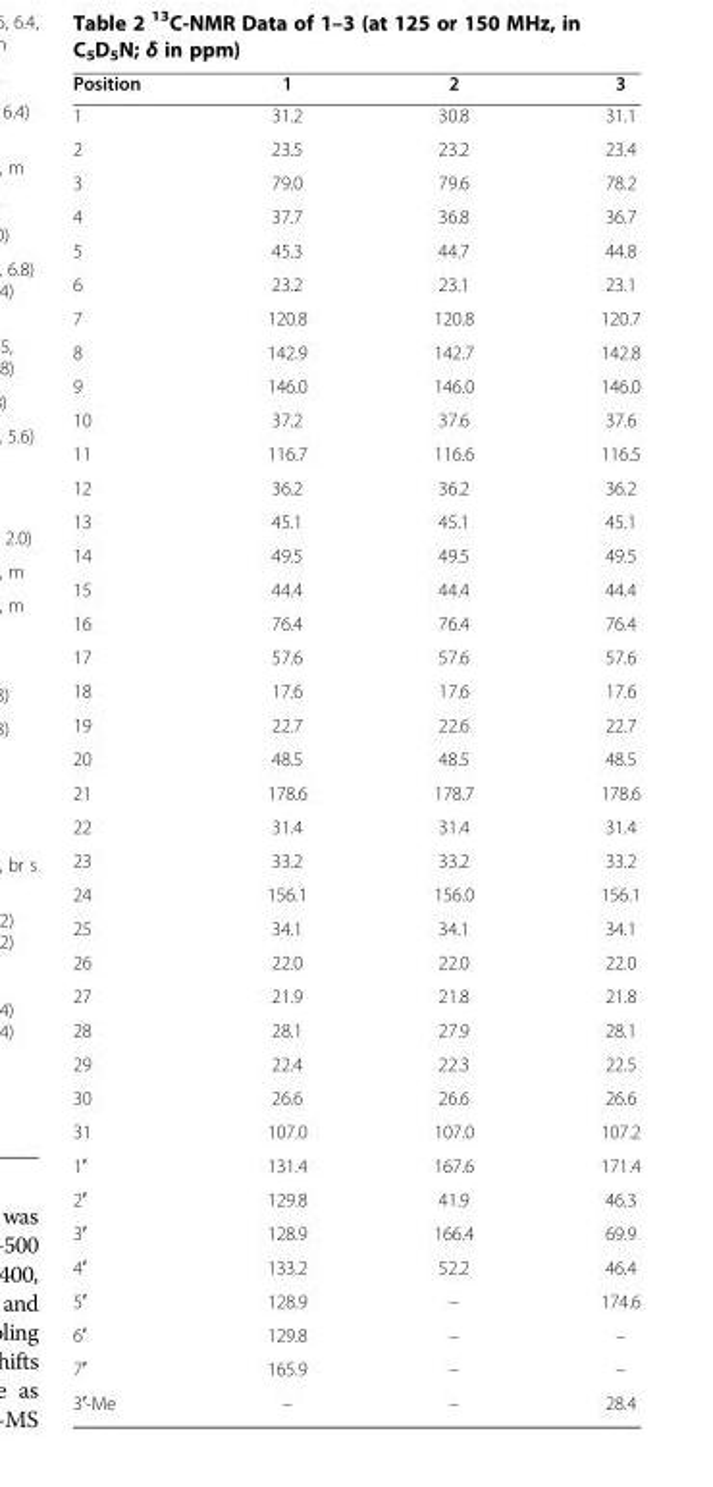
<table><thead><tr><td>Position</td><td>1</td><td>2</td><td>3</td></tr></thead><tbody><tr><td>1</td><td>31.2</td><td>30.8</td><td>31.1</td></tr><tr><td>2</td><td>23.5</td><td>23.2</td><td>23.4</td></tr><tr><td>3</td><td>79.0</td><td>79.6</td><td>78.2</td></tr><tr><td>4</td><td>37.7</td><td>36.8</td><td>36.7</td></tr><tr><td>5</td><td>45.3</td><td>44.7</td><td>44.8</td></tr><tr><td>6</td><td>23.2</td><td>23.1</td><td>23.1</td></tr><tr><td>7</td><td>120.8</td><td>120.8</td><td>120.7</td></tr><tr><td>8</td><td>142.9</td><td>142.7</td><td>142.8</td></tr><tr><td>9</td><td>146.0</td><td>146.0</td><td>146.0</td></tr><tr><td>10</td><td>37.2</td><td>37.6</td><td>37.6</td></tr><tr><td>11</td><td>116.7</td><td>116.6</td><td>116.5</td></tr><tr><td>12</td><td>36.2</td><td>36.2</td><td>36.2</td></tr><tr><td>13</td><td>45.1</td><td>45.1</td><td>45.1</td></tr><tr><td>14</td><td>49.5</td><td>49.5</td><td>49.5</td></tr><tr><td>15</td><td>44.4</td><td>44.4</td><td>44.4</td></tr><tr><td>16</td><td>76.4</td><td>76.4</td><td>76.4</td></tr><tr><td>17</td><td>57.6</td><td>57.6</td><td>57.6</td></tr><tr><td>18</td><td>17.6</td><td>17.6</td><td>17.6</td></tr><tr><td>19</td><td>22.7</td><td>22.6</td><td>22.7</td></tr><tr><td>20</td><td>48.5</td><td>48.5</td><td>48.5</td></tr><tr><td>21</td><td>178.6</td><td>178.7</td><td>178.6</td></tr><tr><td>22</td><td>31.4</td><td>31.4</td><td>31.4</td></tr><tr><td>23</td><td>33.2</td><td>33.2</td><td>33.2</td></tr><tr><td>24</td><td>156.1</td><td>156.0</td><td>156.1</td></tr><tr><td>25</td><td>34.1</td><td>34.1</td><td>34.1</td></tr><tr><td>26</td><td>22.0</td><td>22.0</td><td>22.0</td></tr><tr><td>27</td><td>21.9</td><td>21.8</td><td>21.8</td></tr><tr><td>28</td><td>28.1</td><td>27.9</td><td>28.1</td></tr><tr><td>29</td><td>22.4</td><td>22.3</td><td>22.5</td></tr><tr><td>30</td><td>26.6</td><td>26.6</td><td>26.6</td></tr><tr><td>31</td><td>107.0</td><td>107.0</td><td>107.2</td></tr><tr><td>1′</td><td>131.4</td><td>167.6</td><td>171.4</td></tr><tr><td>2′</td><td>129.8</td><td>41.9</td><td>46.3</td></tr><tr><td>3′</td><td>128.9</td><td>166.4</td><td>69.9</td></tr><tr><td>4′</td><td>133.2</td><td>52.2</td><td>46.4</td></tr><tr><td>5′</td><td>128.9</td><td>–</td><td>174.6</td></tr><tr><td>6′</td><td>129.8</td><td>–</td><td>–</td></tr><tr><td>7′</td><td>165.9</td><td>–</td><td>–</td></tr><tr><td>3′-Me</td><td>–</td><td>–</td><td>28.4</td></tr></tbody></table>